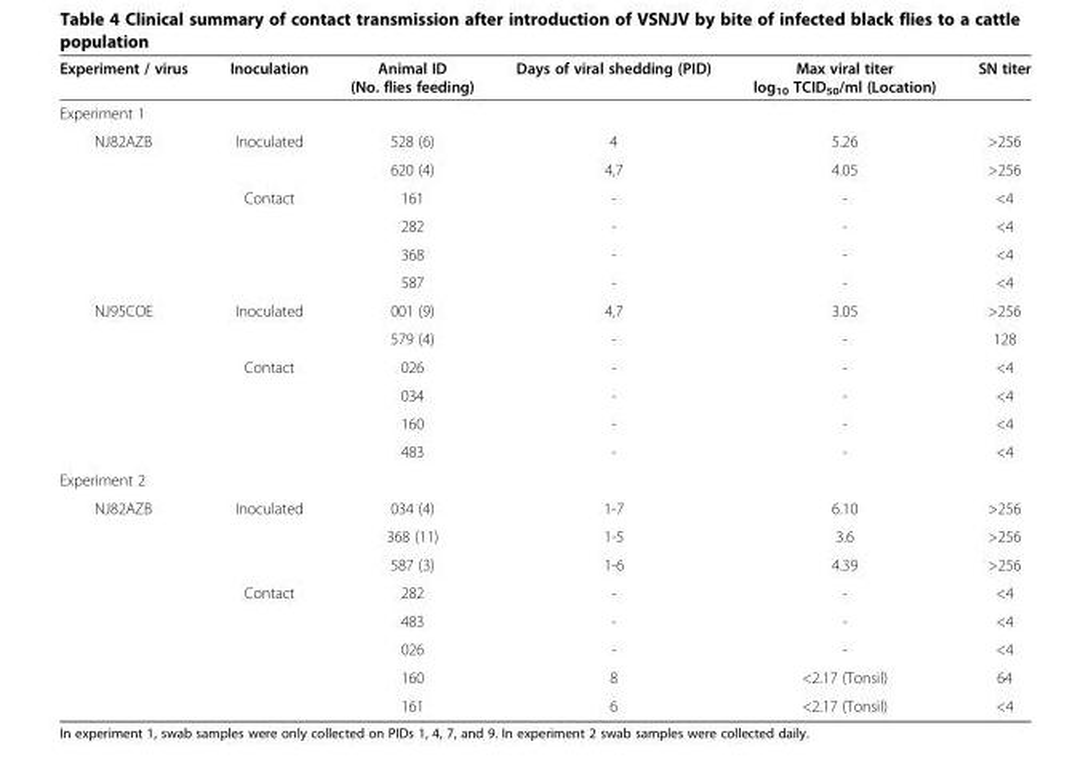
<table><thead><tr><td>Experiment / virus</td><td>Inoculation</td><td>Animal ID (No. flies feeding)</td><td>Days of viral shedding (PID)</td><td>Max viral titer log<sub>10</sub> TCID<sub>50</sub>/ml (Location)</td><td>SN titer</td></tr></thead><tbody><tr><td colspan="6">Experiment 1</td></tr><tr><td rowspan="6">NJ82AZB</td><td>Inoculated</td><td>528 (6)</td><td>4</td><td>5.26</td><td>&gt;256</td></tr><tr><td></td><td>620 (4)</td><td>4,7</td><td>4.05</td><td>&gt;256</td></tr><tr><td>Contact</td><td>161</td><td>-</td><td>-</td><td>&lt;4</td></tr><tr><td></td><td>282</td><td>-</td><td>-</td><td>&lt;4</td></tr><tr><td></td><td>368</td><td>-</td><td>-</td><td>&lt;4</td></tr><tr><td></td><td>587</td><td>-</td><td>-</td><td>&lt;4</td></tr><tr><td rowspan="6">NJ95COE</td><td>Inoculated</td><td>001 (9)</td><td>4,7</td><td>3.05</td><td>&gt;256</td></tr><tr><td></td><td>579 (4)</td><td>-</td><td>-</td><td>128</td></tr><tr><td>Contact</td><td>026</td><td>-</td><td>-</td><td>&lt;4</td></tr><tr><td></td><td>034</td><td>-</td><td>-</td><td>&lt;4</td></tr><tr><td></td><td>160</td><td>-</td><td>-</td><td>&lt;4</td></tr><tr><td></td><td>483</td><td>-</td><td>-</td><td>&lt;4</td></tr><tr><td colspan="6">Experiment 2</td></tr><tr><td rowspan="8">NJ82AZB</td><td>Inoculated</td><td>034 (4)</td><td>1-7</td><td>6.10</td><td>&gt;256</td></tr><tr><td></td><td>368 (11)</td><td>1-5</td><td>3.6</td><td>&gt;256</td></tr><tr><td></td><td>587 (3)</td><td>1-6</td><td>4.39</td><td>&gt;256</td></tr><tr><td>Contact</td><td>282</td><td>-</td><td>-</td><td>&lt;4</td></tr><tr><td></td><td>483</td><td>-</td><td>-</td><td>&lt;4</td></tr><tr><td></td><td>026</td><td>-</td><td>-</td><td>&lt;4</td></tr><tr><td></td><td>160</td><td>8</td><td>&lt;2.17 (Tonsil)</td><td>64</td></tr><tr><td></td><td>161</td><td>6</td><td>&lt;2.17 (Tonsil)</td><td>&lt;4</td></tr></tbody></table>